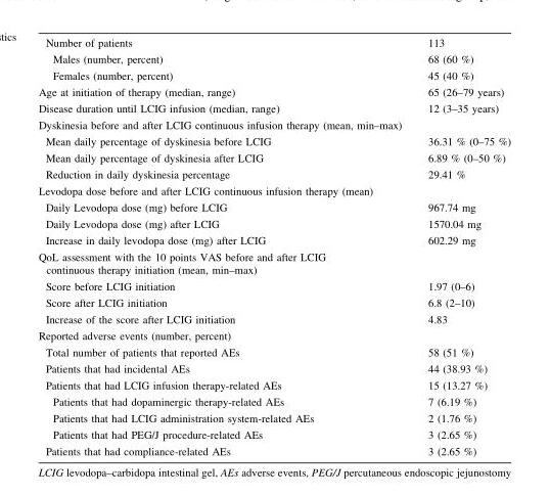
<table><tbody><tr><td>Number of patients</td><td>113</td></tr><tr><td>Males (number, percent)</td><td>68 (60 %)</td></tr><tr><td>Females (number, percent)</td><td>45 (40 %)</td></tr><tr><td>Age at initiation of therapy (median, range)</td><td>65 (26–79 years)</td></tr><tr><td>Disease duration until LCIG infusion (median, range)</td><td>12 (3–35 years)</td></tr><tr><td colspan="2">Dyskinesia before and after LCIG continuous infusion therapy (mean, min–max)</td></tr><tr><td>Mean daily percentage of dyskinesia before LCIG</td><td>36.31 % (0–75 %)</td></tr><tr><td>Mean daily percentage of dyskinesia after LCIG</td><td>6.89 % (0–50 %)</td></tr><tr><td>Reduction in daily dyskinesia percentage</td><td>29.41 %</td></tr><tr><td colspan="2">Levodopa dose before and after LCIG continuous infusion therapy (mean)</td></tr><tr><td>Daily Levodopa dose (mg) before LCIG</td><td>967.74 mg</td></tr><tr><td>Daily Levodopa dose (mg) after LCIG</td><td>1570.04 mg</td></tr><tr><td>Increase in daily levodopa dose (mg) after LCIG</td><td>602.29 mg</td></tr><tr><td colspan="2">QoL assessment with the 10 points VAS before and after LCIG continuous therapy initiation (mean, min–max)</td></tr><tr><td>Score before LCIG initiation</td><td>1.97 (0–6)</td></tr><tr><td>Score after LCIG initiation</td><td>6.8 (2–10)</td></tr><tr><td>Increase of the score after LCIG initiation</td><td>4.83</td></tr><tr><td colspan="2">Reported adverse events (number, percent)</td></tr><tr><td>Total number of patients that reported AEs</td><td>58 (51 %)</td></tr><tr><td>Patients that had incidental AEs</td><td>44 (38.93 %)</td></tr><tr><td>Patients that had LCIG infusion therapy-related AEs</td><td>15 (13.27 %)</td></tr><tr><td>Patients that had dopaminergic therapy-related AEs</td><td>7 (6.19 %)</td></tr><tr><td>Patients that had LCIG administration system-related AEs</td><td>2 (1.76 %)</td></tr><tr><td>Patients that had PEG/J procedure-related AEs</td><td>3 (2.65 %)</td></tr><tr><td>Patients that had compliance-related AEs</td><td>3 (2.65 %)</td></tr></tbody></table>